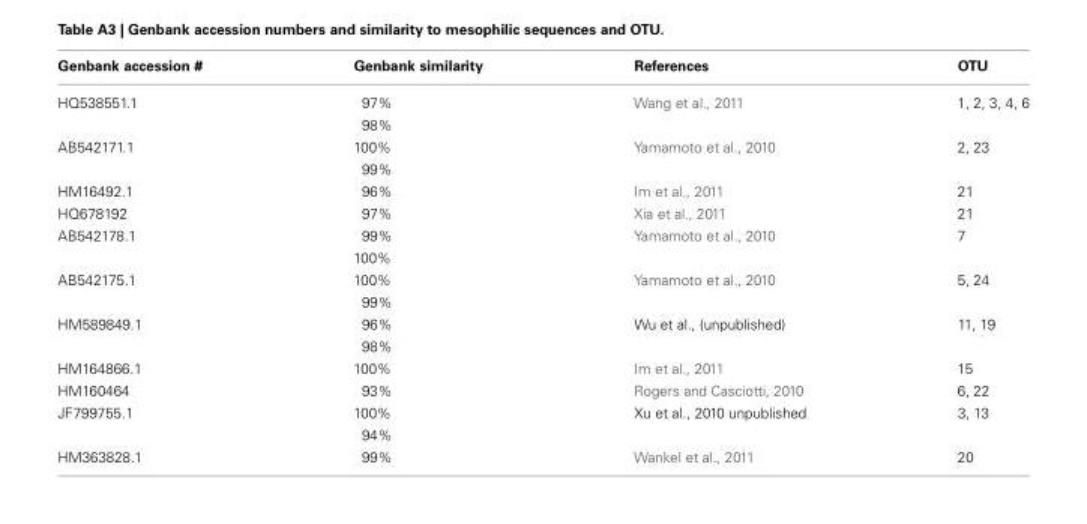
<table><thead><tr><td>Genbank accession #</td><td>Genbank similarity</td><td>References</td><td>OTU</td></tr></thead><tbody><tr><td rowspan="2">HQ538551.1</td><td>97%</td><td>Wang et al., 2011</td><td>1, 2, 3, 4, 6</td></tr><tr><td>98%</td><td></td><td></td></tr><tr><td rowspan="2">AB542171.1</td><td>100%</td><td>Yamamoto et al., 2010</td><td>2, 23</td></tr><tr><td>99%</td><td></td><td></td></tr><tr><td>HM16492.1</td><td>96%</td><td>Im et al., 2011</td><td>21</td></tr><tr><td>HQ678192</td><td>97%</td><td>Xia et al., 2011</td><td>21</td></tr><tr><td rowspan="2">AB542178.1</td><td>99%</td><td>Yamamoto et al., 2010</td><td>7</td></tr><tr><td>100%</td><td></td><td></td></tr><tr><td rowspan="2">AB542175.1</td><td>100%</td><td>Yamamoto et al., 2010</td><td>5, 24</td></tr><tr><td>99%</td><td></td><td></td></tr><tr><td rowspan="2">HM589849.1</td><td>96%</td><td>Wu et al., (unpublished)</td><td>11, 19</td></tr><tr><td>98%</td><td></td><td></td></tr><tr><td>HM164866.1</td><td>100%</td><td>Im et al., 2011</td><td>15</td></tr><tr><td>HM160464</td><td>93%</td><td>Rogers and Casciotti, 2010</td><td>6, 22</td></tr><tr><td rowspan="2">JF799755.1</td><td>100%</td><td>Xu et al., 2010 unpublished</td><td>3, 13</td></tr><tr><td>94%</td><td></td><td></td></tr><tr><td>HM363828.1</td><td>99%</td><td>Wankel et al., 2011</td><td>20</td></tr></tbody></table>